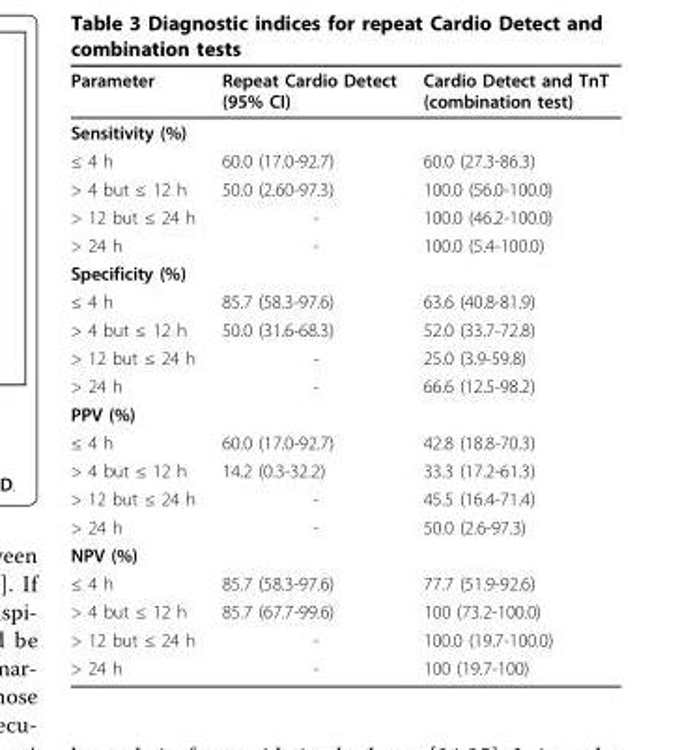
<table><thead><tr><td>Parameter</td><td>Repeat Cardio Detect (95% CI)</td><td>Cardio Detect and TnT (combination test)</td></tr></thead><tbody><tr><td colspan="3">Sensitivity (%)</td></tr><tr><td>≤ 4 h</td><td>60.0 (17.0-92.7)</td><td>60.0 (27.3-86.3)</td></tr><tr><td>&gt; 4 but ≤ 12 h</td><td>50.0 (2.60-97.3)</td><td>100.0 (56.0-100.0)</td></tr><tr><td>&gt; 12 but ≤ 24 h</td><td>-</td><td>100.0 (46.2-100.0)</td></tr><tr><td>&gt; 24 h</td><td>-</td><td>100.0 (5.4-100.0)</td></tr><tr><td colspan="3">Specificity (%)</td></tr><tr><td>≤ 4 h</td><td>85.7 (58.3-97.6)</td><td>63.6 (40.8-81.9)</td></tr><tr><td>&gt; 4 but ≤ 12 h</td><td>50.0 (31.6-68.3)</td><td>52.0 (33.7-72.8)</td></tr><tr><td>&gt; 12 but ≤ 24 h</td><td>-</td><td>25.0 (3.9-59.8)</td></tr><tr><td>&gt; 24 h</td><td>-</td><td>66.6 (12.5-98.2)</td></tr><tr><td colspan="3">PPV (%)</td></tr><tr><td>≤ 4 h</td><td>60.0 (17.0-92.7)</td><td>42.8 (18.8-70.3)</td></tr><tr><td>&gt; 4 but ≤ 12 h</td><td>14.2 (0.3-32.2)</td><td>33.3 (17.2-61.3)</td></tr><tr><td>&gt; 12 but ≤ 24 h</td><td>-</td><td>45.5 (16.4-71.4)</td></tr><tr><td>&gt; 24 h</td><td>-</td><td>50.0 (2.6-97.3)</td></tr><tr><td colspan="3">NPV (%)</td></tr><tr><td>≤ 4 h</td><td>85.7 (58.3-97.6)</td><td>77.7 (51.9-92.6)</td></tr><tr><td>&gt; 4 but ≤ 12 h</td><td>85.7 (67.7-99.6)</td><td>100 (73.2-100.0)</td></tr><tr><td>&gt; 12 but ≤ 24 h</td><td>-</td><td>100.0 (19.7-100.0)</td></tr><tr><td>&gt; 24 h</td><td>-</td><td>100 (19.7-100)</td></tr></tbody></table>